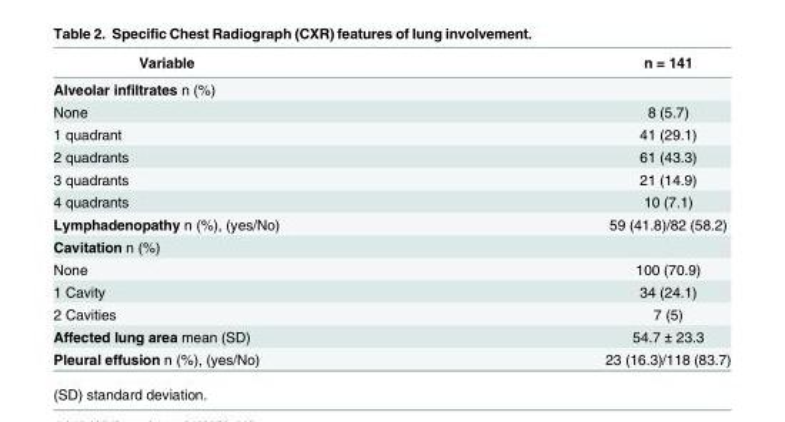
<table><thead><tr><td>Variable</td><td>n = 141</td></tr></thead><tbody><tr><td colspan="2">Alveolar infiltrates n (%)</td></tr><tr><td>None</td><td>8 (5.7)</td></tr><tr><td>1 quadrant</td><td>41 (29.1)</td></tr><tr><td>2 quadrants</td><td>61 (43.3)</td></tr><tr><td>3 quadrants</td><td>21 (14.9)</td></tr><tr><td>4 quadrants</td><td>10 (7.1)</td></tr><tr><td>Lymphadenopathy n (%), (yes/No)</td><td>59 (41.8)/82 (58.2)</td></tr><tr><td colspan="2">Cavitation n (%)</td></tr><tr><td>None</td><td>100 (70.9)</td></tr><tr><td>1 Cavity</td><td>34 (24.1)</td></tr><tr><td>2 Cavities</td><td>7 (5)</td></tr><tr><td>Affected lung area mean (SD)</td><td>54.7 ± 23.3</td></tr><tr><td>Pleural effusion n (%), (yes/No)</td><td>23 (16.3)/118 (83.7)</td></tr></tbody></table>